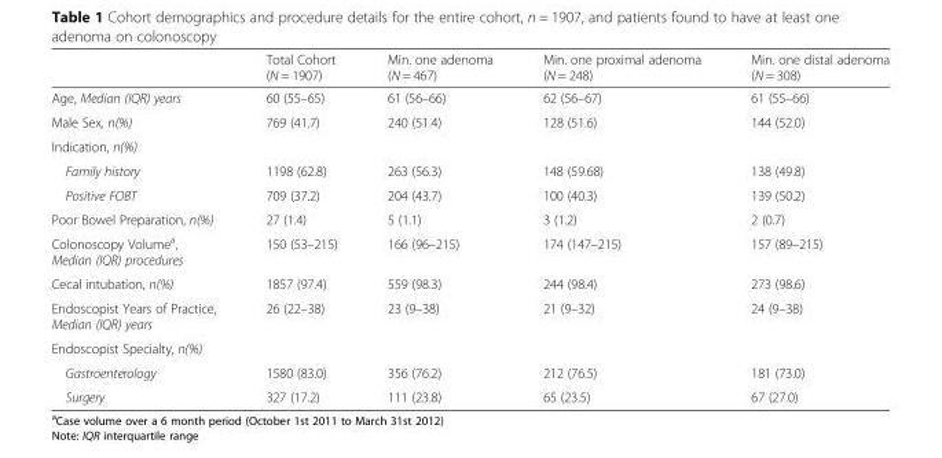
<table><thead><tr><td></td><td>Total Cohort (N = 1907)</td><td>Min. one adenoma (N = 467)</td><td>Min. one proximal adenoma (N = 248)</td><td>Min. one distal adenoma (N = 308)</td></tr></thead><tbody><tr><td>Age, Median (IQR) years</td><td>60 (55–65)</td><td>61 (56–66)</td><td>62 (56–67)</td><td>61 (55–66)</td></tr><tr><td>Male Sex, n(%)</td><td>769 (41.7)</td><td>240 (51.4)</td><td>128 (51.6)</td><td>144 (52.0)</td></tr><tr><td colspan="5">Indication, n(%)</td></tr><tr><td>Family history</td><td>1198 (62.8)</td><td>263 (56.3)</td><td>148 (59.68)</td><td>138 (49.8)</td></tr><tr><td>Positive FOBT</td><td>709 (37.2)</td><td>204 (43.7)</td><td>100 (40.3)</td><td>139 (50.2)</td></tr><tr><td>Poor Bowel Preparation, n(%)</td><td>27 (1.4)</td><td>5 (1.1)</td><td>3 (1.2)</td><td>2 (0.7)</td></tr><tr><td>Colonoscopy Volume<sup>a</sup>, Median (IQR) procedures</td><td>150 (53–215)</td><td>166 (96–215)</td><td>174 (147–215)</td><td>157 (89–215)</td></tr><tr><td>Cecal intubation, n(%)</td><td>1857 (97.4)</td><td>559 (98.3)</td><td>244 (98.4)</td><td>273 (98.6)</td></tr><tr><td>Endoscopist Years of Practice, Median (IQR) years</td><td>26 (22–38)</td><td>23 (9–38)</td><td>21 (9–32)</td><td>24 (9–38)</td></tr><tr><td colspan="5">Endoscopist Specialty, n(%)</td></tr><tr><td>Gastroenterology</td><td>1580 (83.0)</td><td>356 (76.2)</td><td>212 (76.5)</td><td>181 (73.0)</td></tr><tr><td>Surgery</td><td>327 (17.2)</td><td>111 (23.8)</td><td>65 (23.5)</td><td>67 (27.0)</td></tr></tbody></table>